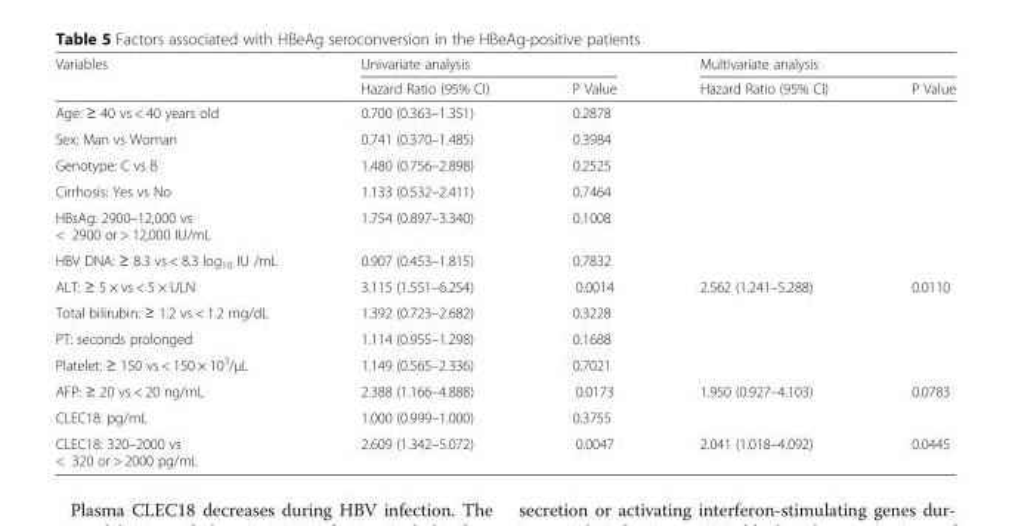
<table><thead><tr><td rowspan="2">Variables</td><td colspan="2">Univariate analysis</td><td colspan="2">Multivariate analysis</td></tr><tr><td>Hazard Ratio (95% CI)</td><td>P Value</td><td>Hazard Ratio (95% CI)</td><td>P Value</td></tr></thead><tbody><tr><td>Age: ≥ 40 vs &lt; 40 years old</td><td>0.700 (0.363–1.351)</td><td colspan="3">0.2878</td></tr><tr><td>Sex: Man vs Woman</td><td>0.741 (0.370–1.485)</td><td colspan="3">0.3984</td></tr><tr><td>Genotype: C vs B</td><td>1.480 (0.756–2.898)</td><td colspan="3">0.2525</td></tr><tr><td>Cirrhosis: Yes vs No</td><td>1.133 (0.532–2.411)</td><td colspan="3">0.7464</td></tr><tr><td>HBsAg: 2900–12,000 vs &lt; 2900 or &gt; 12,000 IU/mL</td><td>1.754 (0.897–3.340)</td><td colspan="3">0.1008</td></tr><tr><td>HBV DNA: ≥ 8.3 vs &lt; 8.3 log<sub>10</sub> IU /mL</td><td>0.907 (0.453–1.815)</td><td colspan="3">0.7832</td></tr><tr><td>ALT: ≥ 5 × vs &lt; 5 × ULN</td><td>3.115 (1.551–6.254)</td><td>0.0014</td><td>2.562 (1.241–5.288)</td><td>0.0110</td></tr><tr><td>Total bilirubin: ≥ 1.2 vs &lt; 1.2 mg/dL</td><td>1.392 (0.723–2.682)</td><td colspan="3">0.3228</td></tr><tr><td>PT: seconds prolonged</td><td>1.114 (0.955–1.298)</td><td colspan="3">0.1688</td></tr><tr><td>Platelet: ≥ 150 vs &lt; 150 × 10<sup>3</sup>/μL</td><td>1.149 (0.565–2.336)</td><td colspan="3">0.7021</td></tr><tr><td>AFP: ≥ 20 vs &lt; 20 ng/mL</td><td>2.388 (1.166–4.888)</td><td>0.0173</td><td>1.950 (0.927–4.103)</td><td>0.0783</td></tr><tr><td>CLEC18: pg/mL</td><td>1.000 (0.999–1.000)</td><td colspan="3">0.3755</td></tr><tr><td>CLEC18: 320–2000 vs &lt; 320 or &gt; 2000 pg/mL</td><td>2.609 (1.342–5.072)</td><td>0.0047</td><td>2.041 (1.018–4.092)</td><td>0.0445</td></tr></tbody></table>